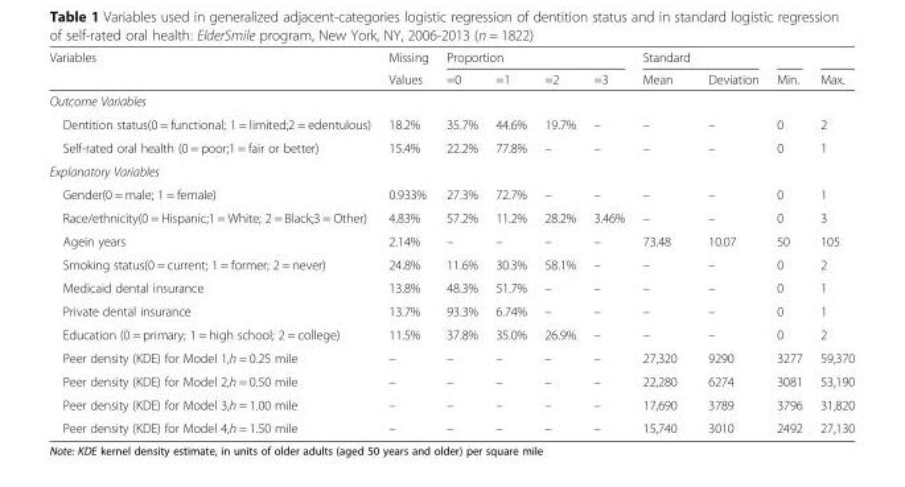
<table><thead><tr><td rowspan="2">Variables</td><td rowspan="2">Missing Values</td><td colspan="4">Proportion</td><td rowspan="2">Standard Mean</td><td rowspan="2">Deviation</td><td rowspan="2">Min.</td><td rowspan="2">Max.</td></tr><tr><td>=0</td><td>=1</td><td>=2</td><td>=3</td></tr></thead><tbody><tr><td colspan="10">Outcome Variables</td></tr><tr><td>Dentition status(0 = functional; 1 = limited;2 = edentulous)</td><td>18.2%</td><td>35.7%</td><td>44.6%</td><td>19.7%</td><td>–</td><td>–</td><td>–</td><td>0</td><td>2</td></tr><tr><td>Self-rated oral health (0 = poor;1 = fair or better)</td><td>15.4%</td><td>22.2%</td><td>77.8%</td><td>–</td><td>–</td><td>–</td><td>–</td><td>0</td><td>1</td></tr><tr><td colspan="10">Explanatory Variables</td></tr><tr><td>Gender(0 = male; 1 = female)</td><td>0.933%</td><td>27.3%</td><td>72.7%</td><td>–</td><td>–</td><td>–</td><td>–</td><td>0</td><td>1</td></tr><tr><td>Race/ethnicity(0 = Hispanic;1 = White; 2 = Black;3 = Other)</td><td>4.83%</td><td>57.2%</td><td>11.2%</td><td>28.2%</td><td>3.46%</td><td>–</td><td>–</td><td>0</td><td>3</td></tr><tr><td>Agein years</td><td>2.14%</td><td>–</td><td>–</td><td>–</td><td>–</td><td>73.48</td><td>10.07</td><td>50</td><td>105</td></tr><tr><td>Smoking status(0 = current; 1 = former; 2 = never)</td><td>24.8%</td><td>11.6%</td><td>30.3%</td><td>58.1%</td><td>–</td><td>–</td><td>–</td><td>0</td><td>2</td></tr><tr><td>Medicaid dental insurance</td><td>13.8%</td><td>48.3%</td><td>51.7%</td><td>–</td><td>–</td><td>–</td><td>–</td><td>0</td><td>1</td></tr><tr><td>Private dental insurance</td><td>13.7%</td><td>93.3%</td><td>6.74%</td><td>–</td><td>–</td><td>–</td><td>–</td><td>0</td><td>1</td></tr><tr><td>Education (0 = primary; 1 = high school; 2 = college)</td><td>11.5%</td><td>37.8%</td><td>35.0%</td><td>26.9%</td><td>–</td><td>–</td><td>–</td><td>0</td><td>2</td></tr><tr><td>Peer density (KDE) for Model 1,h = 0.25 mile</td><td>–</td><td>–</td><td>–</td><td>–</td><td>–</td><td>27,320</td><td>9290</td><td>3277</td><td>59,370</td></tr><tr><td>Peer density (KDE) for Model 2,h = 0.50 mile</td><td>–</td><td>–</td><td>–</td><td>–</td><td>–</td><td>22,280</td><td>6274</td><td>3081</td><td>53,190</td></tr><tr><td>Peer density (KDE) for Model 3,h = 1.00 mile</td><td>–</td><td>–</td><td>–</td><td>–</td><td>–</td><td>17,690</td><td>3789</td><td>3796</td><td>31,820</td></tr><tr><td>Peer density (KDE) for Model 4,h = 1.50 mile</td><td>–</td><td>–</td><td>–</td><td>–</td><td>–</td><td>15,740</td><td>3010</td><td>2492</td><td>27,130</td></tr></tbody></table>